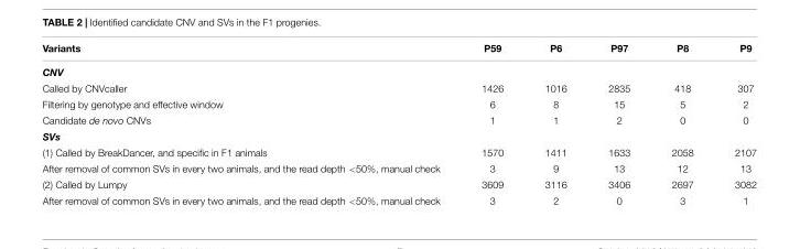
<table><thead><tr><td>Variants</td><td>P59</td><td>P6</td><td>P97</td><td>P8</td><td>P9</td></tr></thead><tbody><tr><td colspan="6">CNV</td></tr><tr><td>Called by CNVcaller</td><td>1426</td><td>1016</td><td>2835</td><td>418</td><td>307</td></tr><tr><td>Filtering by genotype and effective window</td><td>6</td><td>8</td><td>15</td><td>5</td><td>2</td></tr><tr><td>Candidate de novo CNVs</td><td>1</td><td>1</td><td>2</td><td>0</td><td>0</td></tr><tr><td colspan="6">SVs</td></tr><tr><td>(1) Called by BreakDancer, and specific in F1 animals</td><td>1570</td><td>1411</td><td>1633</td><td>2058</td><td>2107</td></tr><tr><td>After removal of common SVs in every two animals, and the read depth &lt;50%, manual check</td><td>3</td><td>9</td><td>13</td><td>12</td><td>13</td></tr><tr><td>(2) Called by Lumpy</td><td>3609</td><td>3116</td><td>3406</td><td>2697</td><td>3082</td></tr><tr><td>After removal of common SVs in every two animals, and the read depth &lt;50%, manual check</td><td>3</td><td>2</td><td>0</td><td>3</td><td>1</td></tr></tbody></table>